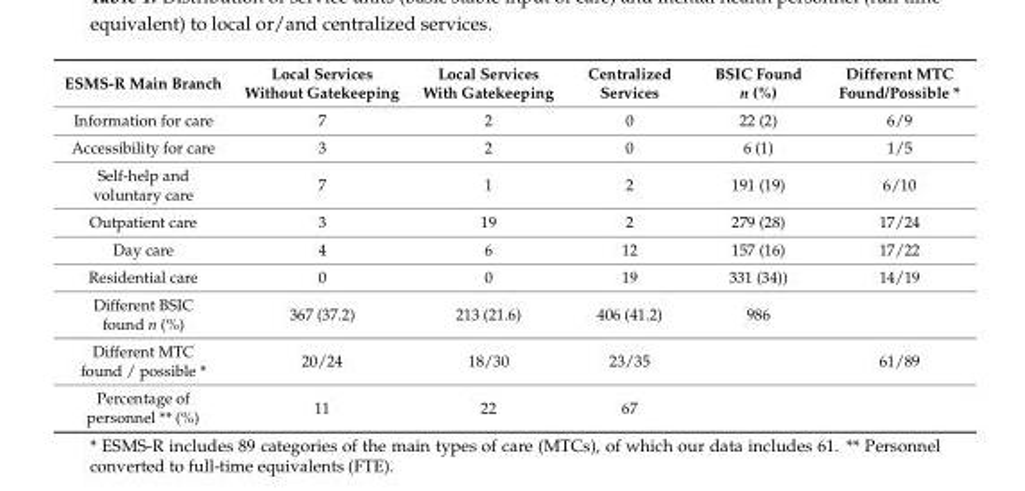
<table><thead><tr><td>ESMS-R Main Branch</td><td>Local Services Without Gatekeeping</td><td>Local Services With Gatekeeping</td><td>Centralized Services</td><td>BSIC Found n (%)</td><td>Different MTC Found/Possible *</td></tr></thead><tbody><tr><td>Information for care</td><td>7</td><td>2</td><td>0</td><td>22 (2)</td><td>6/9</td></tr><tr><td>Accessibility for care</td><td>3</td><td>2</td><td>0</td><td>6 (1)</td><td>1/5</td></tr><tr><td>Self-help and voluntary care</td><td>7</td><td>1</td><td>2</td><td>191 (19)</td><td>6/10</td></tr><tr><td>Outpatient care</td><td>3</td><td>19</td><td>2</td><td>279 (28)</td><td>17/24</td></tr><tr><td>Day care</td><td>4</td><td>6</td><td>12</td><td>157 (16)</td><td>17/22</td></tr><tr><td>Residential care</td><td>0</td><td>0</td><td>19</td><td>331 (34))</td><td>14/19</td></tr><tr><td>Different BSIC found n (%)</td><td>367 (37.2)</td><td>213 (21.6)</td><td>406 (41.2)</td><td>986</td><td></td></tr><tr><td>Different MTC found / possible *</td><td>20/24</td><td>18/30</td><td>23/35</td><td></td><td>61/89</td></tr><tr><td>Percentage of personnel ** (%)</td><td>11</td><td>22</td><td>67</td><td></td><td></td></tr></tbody></table>